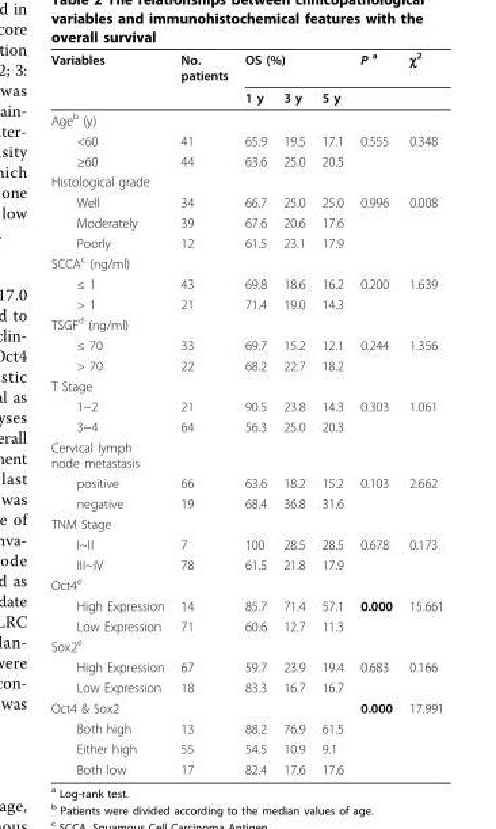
<table><thead><tr><td rowspan="2">Variables</td><td rowspan="2">No. patients</td><td colspan="3">OS (%)</td><td rowspan="2">P <sup>a</sup></td><td rowspan="2">χ<sup>2</sup></td></tr><tr><td>1 y</td><td>3 y</td><td>5 y</td></tr></thead><tbody><tr><td colspan="7">Age<sup>b</sup> (y)</td></tr><tr><td>&lt;60</td><td>41</td><td>65.9</td><td>19.5</td><td>17.1</td><td>0.555</td><td>0.348</td></tr><tr><td>≥60</td><td>44</td><td>63.6</td><td>25.0</td><td>20.5</td><td></td><td></td></tr><tr><td colspan="7">Histological grade</td></tr><tr><td>Well</td><td>34</td><td>66.7</td><td>25.0</td><td>25.0</td><td>0.996</td><td>0.008</td></tr><tr><td>Moderately</td><td>39</td><td>67.6</td><td>20.6</td><td>17.6</td><td></td><td></td></tr><tr><td>Poorly</td><td>12</td><td>61.5</td><td>23.1</td><td>17.9</td><td></td><td></td></tr><tr><td colspan="7">SCCA<sup>c</sup> (ng/ml)</td></tr><tr><td>≤ 1</td><td>43</td><td>69.8</td><td>18.6</td><td>16.2</td><td>0.200</td><td>1.639</td></tr><tr><td>&gt; 1</td><td>21</td><td>71.4</td><td>19.0</td><td>14.3</td><td></td><td></td></tr><tr><td colspan="7">TSGF<sup>d</sup> (ng/ml)</td></tr><tr><td>≤ 70</td><td>33</td><td>69.7</td><td>15.2</td><td>12.1</td><td>0.244</td><td>1.356</td></tr><tr><td>&gt; 70</td><td>22</td><td>68.2</td><td>22.7</td><td>18.2</td><td></td><td></td></tr><tr><td colspan="7">T Stage</td></tr><tr><td>1~2</td><td>21</td><td>90.5</td><td>23.8</td><td>14.3</td><td>0.303</td><td>1.061</td></tr><tr><td>3~4</td><td>64</td><td>56.3</td><td>25.0</td><td>20.3</td><td></td><td></td></tr><tr><td colspan="7">Cervical lymph node metastasis</td></tr><tr><td>positive</td><td>66</td><td>63.6</td><td>18.2</td><td>15.2</td><td>0.103</td><td>2.662</td></tr><tr><td>negative</td><td>19</td><td>68.4</td><td>36.8</td><td>31.6</td><td></td><td></td></tr><tr><td colspan="7">TNM Stage</td></tr><tr><td>I~II</td><td>7</td><td>100</td><td>28.5</td><td>28.5</td><td>0.678</td><td>0.173</td></tr><tr><td>III~IV</td><td>78</td><td>61.5</td><td>21.8</td><td>17.9</td><td></td><td></td></tr><tr><td colspan="7">Oct4<sup>e</sup></td></tr><tr><td>High Expression</td><td>14</td><td>85.7</td><td>71.4</td><td>57.1</td><td>0.000</td><td>15.661</td></tr><tr><td>Low Expression</td><td>71</td><td>60.6</td><td>12.7</td><td>11.3</td><td></td><td></td></tr><tr><td colspan="7">Sox2<sup>e</sup></td></tr><tr><td>High Expression</td><td>67</td><td>59.7</td><td>23.9</td><td>19.4</td><td>0.683</td><td>0.166</td></tr><tr><td>Low Expression</td><td>18</td><td>83.3</td><td>16.7</td><td>16.7</td><td></td><td></td></tr><tr><td colspan="2">Oct4 &amp; Sox2</td><td></td><td></td><td></td><td>0.000</td><td>17.991</td></tr><tr><td>Both high</td><td>13</td><td>88.2</td><td>76.9</td><td>61.5</td><td></td><td></td></tr><tr><td>Either high</td><td>55</td><td>54.5</td><td>10.9</td><td>9.1</td><td></td><td></td></tr><tr><td>Both low</td><td>17</td><td>82.4</td><td>17.6</td><td>17.6</td><td></td><td></td></tr></tbody></table>